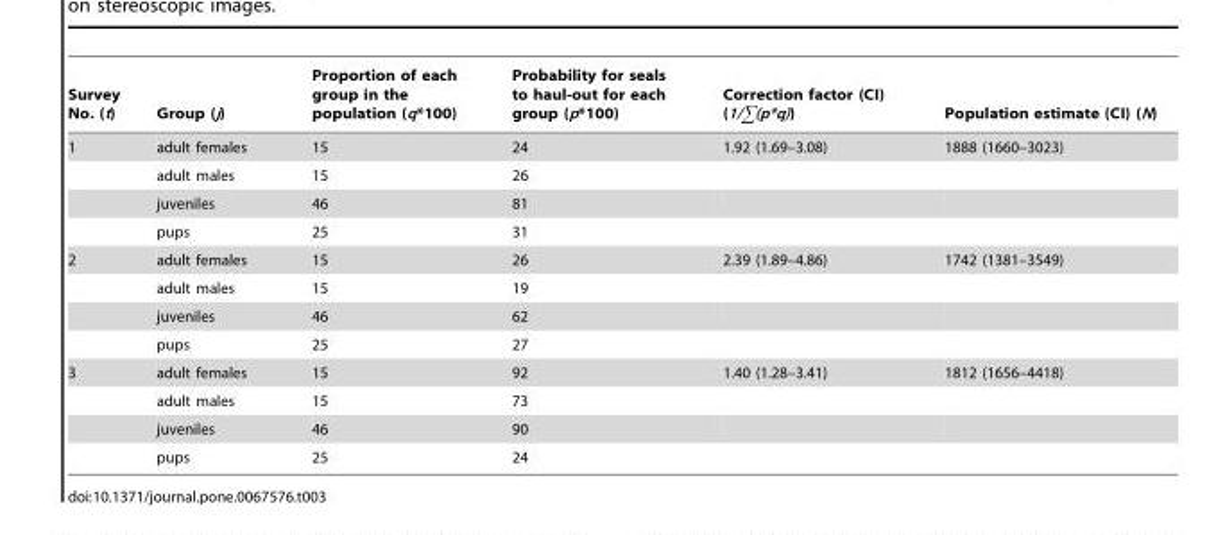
<table><thead><tr><td>Survey No. (t)</td><td>Group (j)</td><td>Proportion of each group in the population (q*100)</td><td>Probability for seals to haul-out for each group (p*100)</td><td>Correction factor (CI) (1/∑(p*q))</td><td>Population estimate (CI) (N)</td></tr></thead><tbody><tr><td rowspan="4">1</td><td>adult females</td><td>15</td><td>24</td><td>1.92 (1.69–3.08)</td><td>1888 (1660–3023)</td></tr><tr><td>adult males</td><td>15</td><td>26</td><td></td><td></td></tr><tr><td>juveniles</td><td>46</td><td>81</td><td></td><td></td></tr><tr><td>pups</td><td>25</td><td>31</td><td></td><td></td></tr><tr><td rowspan="4">2</td><td>adult females</td><td>15</td><td>26</td><td>2.39 (1.89–4.86)</td><td>1742 (1381–3549)</td></tr><tr><td>adult males</td><td>15</td><td>19</td><td></td><td></td></tr><tr><td>juveniles</td><td>46</td><td>62</td><td></td><td></td></tr><tr><td>pups</td><td>25</td><td>27</td><td></td><td></td></tr><tr><td rowspan="4">3</td><td>adult females</td><td>15</td><td>92</td><td>1.40 (1.28–3.41)</td><td>1812 (1656–4418)</td></tr><tr><td>adult males</td><td>15</td><td>73</td><td></td><td></td></tr><tr><td>juveniles</td><td>46</td><td>90</td><td></td><td></td></tr><tr><td>pups</td><td>25</td><td>24</td><td></td><td></td></tr></tbody></table>